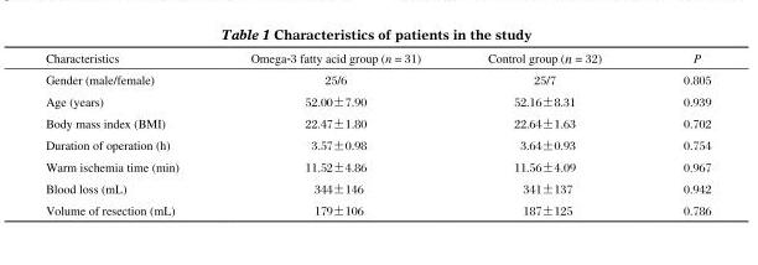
<table><thead><tr><td>Characteristics</td><td>Omega-3 fatty acid group (n = 31)</td><td>Control group (n = 32)</td><td>P</td></tr></thead><tbody><tr><td>Gender (male/female)</td><td>25/6</td><td>25/7</td><td>0.805</td></tr><tr><td>Age (years)</td><td>52.00±7.90</td><td>52.16±8.31</td><td>0.939</td></tr><tr><td>Body mass index (BMI)</td><td>22.47±1.80</td><td>22.64±1.63</td><td>0.702</td></tr><tr><td>Duration of operation (h)</td><td>03.57±0.98</td><td>03.64±0.93</td><td>0.754</td></tr><tr><td>Warm ischemia time (min)</td><td>11.52±4.86</td><td>11.56±4.09</td><td>0.967</td></tr><tr><td>Blood loss (mL)</td><td>.0344±146.</td><td>.0341±137.</td><td>0.942</td></tr><tr><td>Volume of resection (mL)</td><td>.0179±106.</td><td>.0187±125.</td><td>0.786</td></tr></tbody></table>